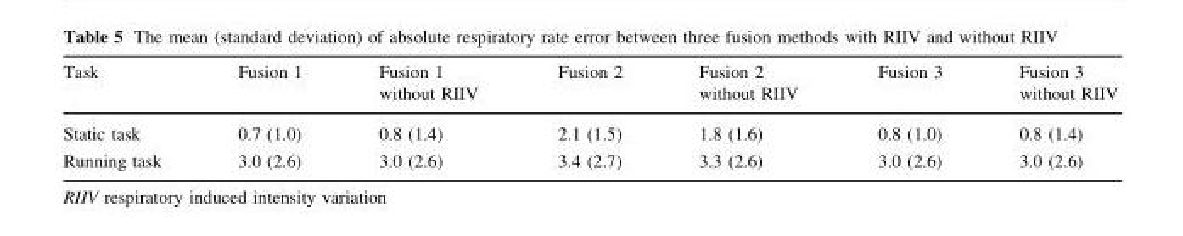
<table><thead><tr><td>Task</td><td>Fusion 1</td><td>Fusion 1 without RIIV</td><td>Fusion 2</td><td>Fusion 2 without RIIV</td><td>Fusion 3</td><td>Fusion 3 without RIIV</td></tr></thead><tbody><tr><td>Static task</td><td>0.7 (1.0)</td><td>0.8 (1.4)</td><td>2.1 (1.5)</td><td>1.8 (1.6)</td><td>0.8 (1.0)</td><td>0.8 (1.4)</td></tr><tr><td>Running task</td><td>3.0 (2.6)</td><td>3.0 (2.6)</td><td>3.4 (2.7)</td><td>3.3 (2.6)</td><td>3.0 (2.6)</td><td>3.0 (2.6)</td></tr></tbody></table>